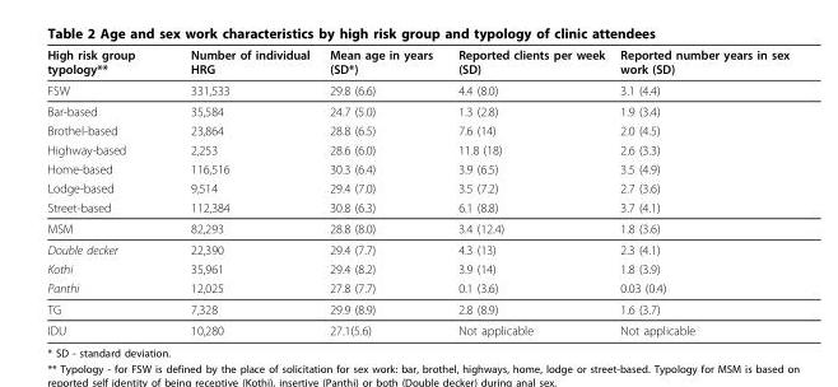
<table><thead><tr><td>High risk group typology**</td><td>Number of individual HRG</td><td>Mean age in years (SD*)</td><td>Reported clients per week (SD)</td><td>Reported number years in sex work (SD)</td></tr></thead><tbody><tr><td>FSW</td><td>331,533</td><td>29.8 (6.6)</td><td>4.4 (8.0)</td><td>3.1 (4.4)</td></tr><tr><td>Bar-based</td><td>35,584</td><td>24.7 (5.0)</td><td>1.3 (2.8)</td><td>1.9 (3.4)</td></tr><tr><td>Brothel-based</td><td>23,864</td><td>28.8 (6.5)</td><td>7.6 (14)</td><td>2.0 (4.5)</td></tr><tr><td>Highway-based</td><td>2,253</td><td>28.6 (6.0)</td><td>11.8 (18)</td><td>2.6 (3.3)</td></tr><tr><td>Home-based</td><td>116,516</td><td>30.3 (6.4)</td><td>3.9 (6.5)</td><td>3.5 (4.9)</td></tr><tr><td>Lodge-based</td><td>9,514</td><td>29.4 (7.0)</td><td>3.5 (7.2)</td><td>2.7 (3.6)</td></tr><tr><td>Street-based</td><td>112,384</td><td>30.8 (6.3)</td><td>6.1 (8.8)</td><td>3.7 (4.1)</td></tr><tr><td>MSM</td><td>82,293</td><td>28.8 (8.0)</td><td>3.4 (12.4)</td><td>1.8 (3.6)</td></tr><tr><td>Double decker</td><td>22,390</td><td>29.4 (7.7)</td><td>4.3 (13)</td><td>2.3 (4.1)</td></tr><tr><td>Kothi</td><td>35,961</td><td>29.4 (8.2)</td><td>3.9 (14)</td><td>1.8 (3.9)</td></tr><tr><td>Panthi</td><td>12,025</td><td>27.8 (7.7)</td><td>0.1 (3.6)</td><td>0.03 (0.4)</td></tr><tr><td>TG</td><td>7,328</td><td>29.9 (8.9)</td><td>2.8 (8.9)</td><td>1.6 (3.7)</td></tr><tr><td>IDU</td><td>10,280</td><td>27.1(5.6)</td><td>Not applicable</td><td>Not applicable</td></tr></tbody></table>